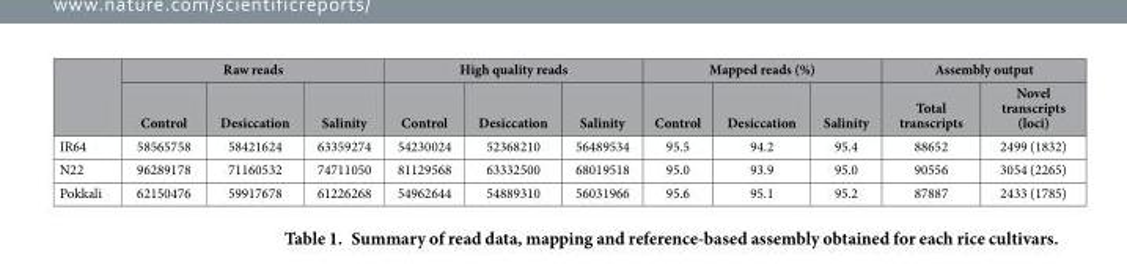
<table><thead><tr><td rowspan="2"></td><td colspan="3">Raw reads</td><td colspan="3">High quality reads</td><td colspan="3">Mapped reads (%)</td><td colspan="2">Assembly output</td></tr><tr><td>Control</td><td>Desiccation</td><td>Salinity</td><td>Control</td><td>Desiccation</td><td>Salinity</td><td>Control</td><td>Desiccation</td><td>Salinity</td><td>Total transcripts</td><td>Novel transcripts (loci)</td></tr></thead><tbody><tr><td>IR64</td><td>58565758</td><td>58421624</td><td>63359274</td><td>54230024</td><td>52368210</td><td>56489534</td><td>95.5</td><td>94.2</td><td>95.4</td><td>88652</td><td>2499 (1832)</td></tr><tr><td>N22</td><td>96289178</td><td>71160532</td><td>74711050</td><td>81129568</td><td>63332500</td><td>68019518</td><td>95.0</td><td>93.9</td><td>95.0</td><td>90556</td><td>3054 (2265)</td></tr><tr><td>Pokkali</td><td>62150476</td><td>59917678</td><td>61226268</td><td>54962644</td><td>54889310</td><td>56031966</td><td>95.6</td><td>95.1</td><td>95.2</td><td>87887</td><td>2433 (1785)</td></tr></tbody></table>